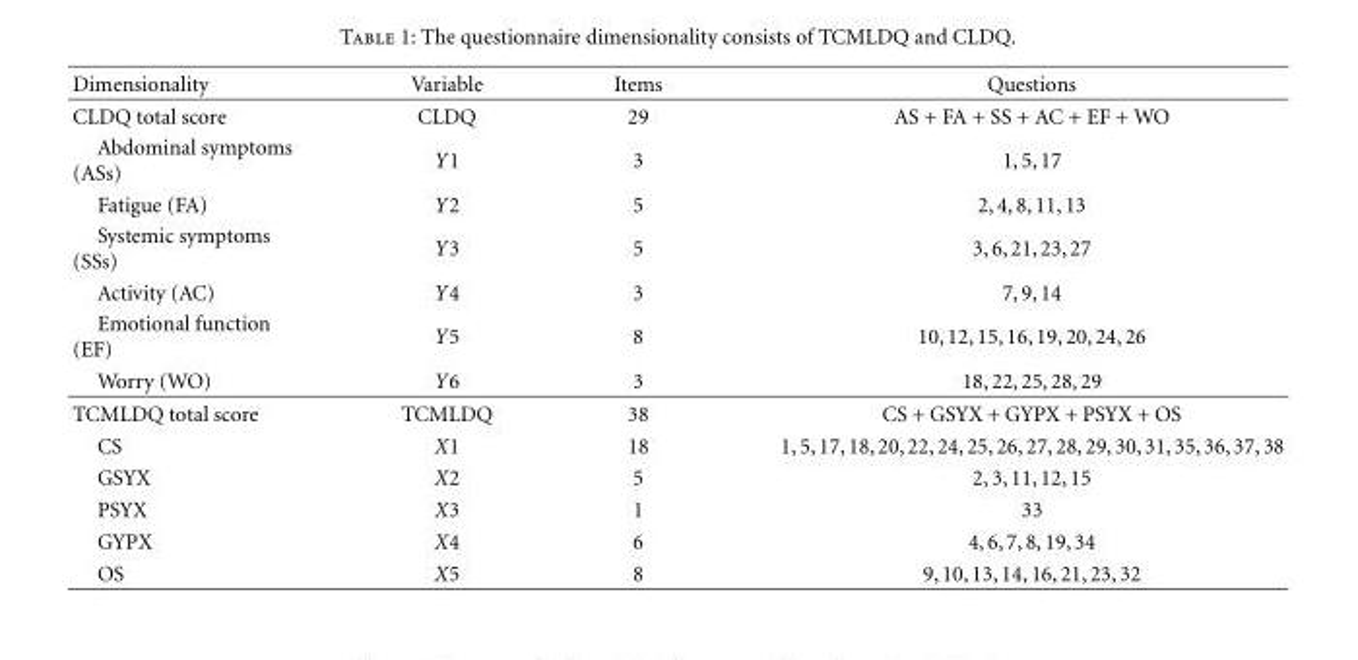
<table><thead><tr><td>Dimensionality</td><td>Variable</td><td>Items</td><td>Questions</td></tr></thead><tbody><tr><td>CLDQ total score</td><td>CLDQ</td><td>29</td><td>AS + FA + SS + AC + EF + WO</td></tr><tr><td>Abdominal symptoms (ASs)</td><td>Y1</td><td>3</td><td>1,5,17</td></tr><tr><td>Fatigue (FA)</td><td>Y2</td><td>5</td><td>2,4,8,11,13</td></tr><tr><td>Systemic symptoms (SSs)</td><td>Y3</td><td>5</td><td>3,6,21,23,27</td></tr><tr><td>Activity (AC)</td><td>Y4</td><td>3</td><td>7,9,14</td></tr><tr><td>Emotional function (EF)</td><td>Y5</td><td>8</td><td>10,12,15,16,19,20,24,26</td></tr><tr><td>Worry (WO)</td><td>Y6</td><td>3</td><td>18,22,25,28,29</td></tr><tr><td>TCMLDQ total score</td><td>TCMLDQ</td><td>38</td><td>CS + GSYX + GYPX + PSYX + OS</td></tr><tr><td>CS</td><td>X1</td><td>18</td><td>1,5,17,18,20,22,24,25,26,27,28,29,30,31,35,36,37,38</td></tr><tr><td>GSYX</td><td>X2</td><td>5</td><td>2,3,11,12,15</td></tr><tr><td>PSYX</td><td>X3</td><td>1</td><td>33</td></tr><tr><td>GYPX</td><td>X4</td><td>6</td><td>4,6,7,8,19,34</td></tr><tr><td>OS</td><td>X5</td><td>8</td><td>9,10,13,14,16,21,23,32</td></tr></tbody></table>